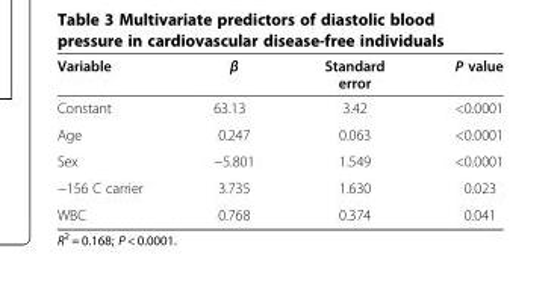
<table><thead><tr><td>Variable</td><td>β</td><td>Standard error</td><td>P value</td></tr></thead><tbody><tr><td>Constant</td><td>63.13</td><td>3.42</td><td>&lt;0.0001</td></tr><tr><td>Age</td><td>0.247</td><td>0.063</td><td>&lt;0.0001</td></tr><tr><td>Sex</td><td>−5.801</td><td>1.549</td><td>&lt;0.0001</td></tr><tr><td>−156 C carrier</td><td>3.735</td><td>1.630</td><td>0.023</td></tr><tr><td>WBC</td><td>0.768</td><td>0.374</td><td>0.041</td></tr></tbody></table>